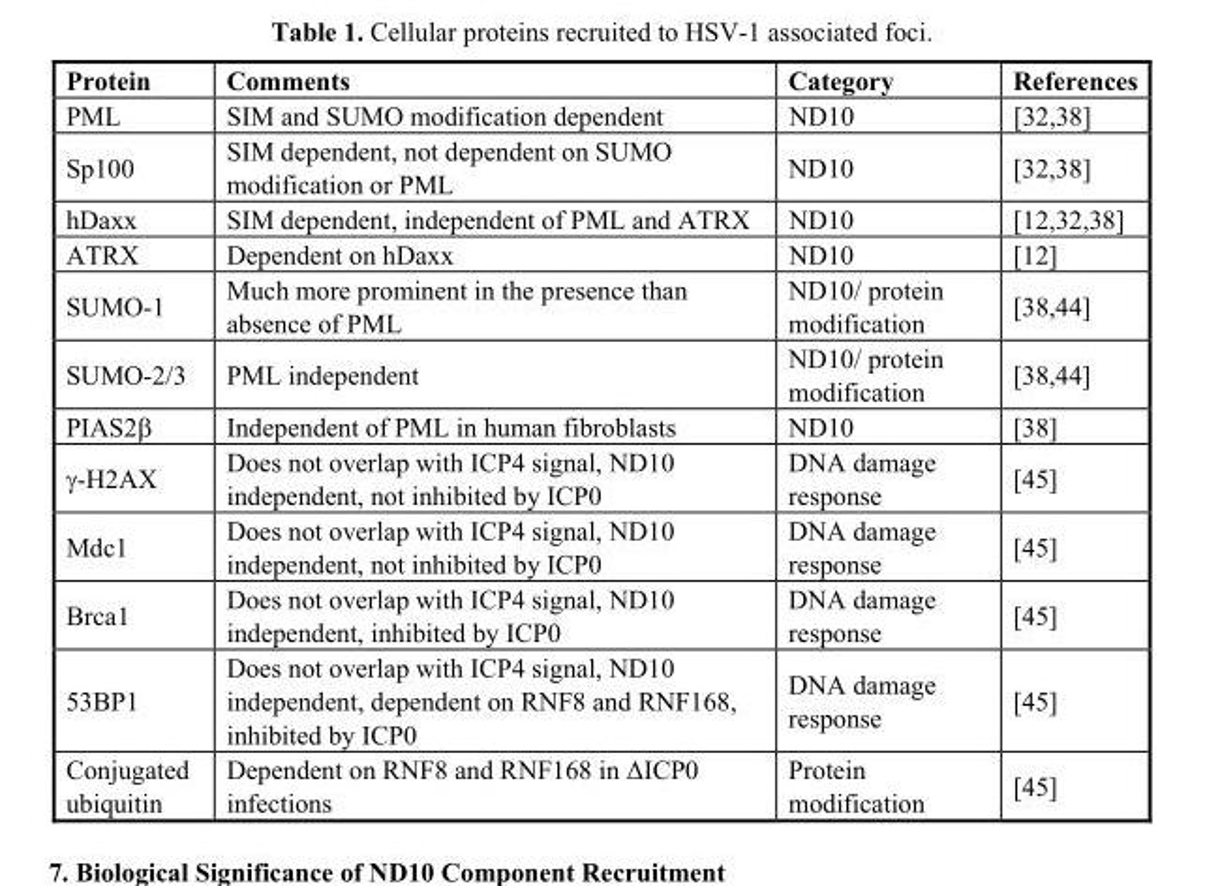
<table><thead><tr><td>Protein</td><td>Comments</td><td>Category</td><td>References</td></tr></thead><tbody><tr><td>PML</td><td>SIM and SUMO modification dependent</td><td>ND10</td><td>[32,38]</td></tr><tr><td>Sp100</td><td>SIM dependent, not dependent on SUMO modification or PML</td><td>ND10</td><td>[32,38]</td></tr><tr><td>hDaxx</td><td>SIM dependent, independent of PML and ATRX</td><td>ND10</td><td>[12,32,38]</td></tr><tr><td>ATRX</td><td>Dependent on hDaxx</td><td>ND10</td><td>[12]</td></tr><tr><td>SUMO-1</td><td>Much more prominent in the presence than absence of PML</td><td>ND10/ protein modification</td><td>[38,44]</td></tr><tr><td>SUMO-2/3</td><td>PML independent</td><td>ND10/ protein modification</td><td>[38,44]</td></tr><tr><td>PIAS2β</td><td>Independent of PML in human fibroblasts</td><td>ND10</td><td>[38]</td></tr><tr><td>γ-H2AX</td><td>Does not overlap with ICP4 signal, ND10 independent, not inhibited by ICP0</td><td>DNA damage response</td><td>[45]</td></tr><tr><td>Mdc1</td><td>Does not overlap with ICP4 signal, ND10 independent, not inhibited by ICP0</td><td>DNA damage response</td><td>[45]</td></tr><tr><td>Brca1</td><td>Does not overlap with ICP4 signal, ND10 independent, inhibited by ICP0</td><td>DNA damage response</td><td>[45]</td></tr><tr><td>53BP1</td><td>Does not overlap with ICP4 signal, ND10 independent, dependent on RNF8 and RNF168, inhibited by ICP0</td><td>DNA damage response</td><td>[45]</td></tr><tr><td>Conjugated ubiquitin</td><td>Dependent on RNF8 and RNF168 in ΔICP0 infections</td><td>Protein modification</td><td>[45]</td></tr></tbody></table>